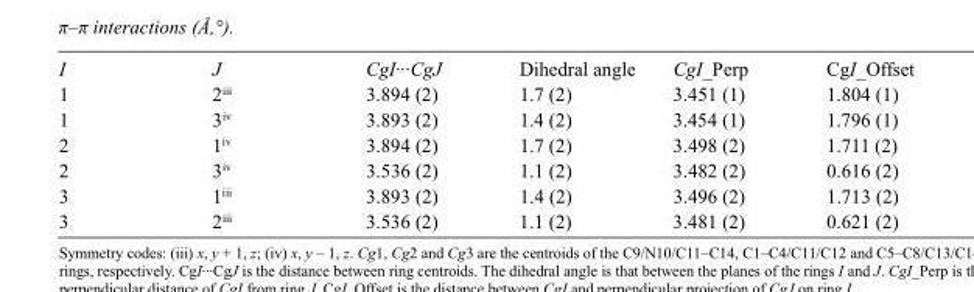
<table><tbody><tr><td>I</td><td>J</td><td>CgI···CgJ</td><td>Dihedral angle</td><td>CgI_Perp</td><td>CgI_Offset</td></tr><tr><td>1</td><td>2<sup>iii</sup></td><td>3.894 (2)</td><td>1.7 (2)</td><td>3.451 (1)</td><td>1.804 (1)</td></tr><tr><td>1</td><td>3<sup>iv</sup></td><td>3.893 (2)</td><td>1.4 (2)</td><td>3.454 (1)</td><td>1.796 (1)</td></tr><tr><td>2</td><td>1<sup>iv</sup></td><td>3.894 (2)</td><td>1.7 (2)</td><td>3.498 (2)</td><td>1.711 (2)</td></tr><tr><td>2</td><td>3<sup>iv</sup></td><td>3.536 (2)</td><td>1.1 (2)</td><td>3.482 (2)</td><td>0.616 (2)</td></tr><tr><td>3</td><td>1<sup>iii</sup></td><td>3.893 (2)</td><td>1.4 (2)</td><td>3.496 (2)</td><td>1.713 (2)</td></tr><tr><td>3</td><td>2<sup>iii</sup></td><td>3.536 (2)</td><td>1.1 (2)</td><td>3.481 (2)</td><td>0.621 (2)</td></tr></tbody></table>